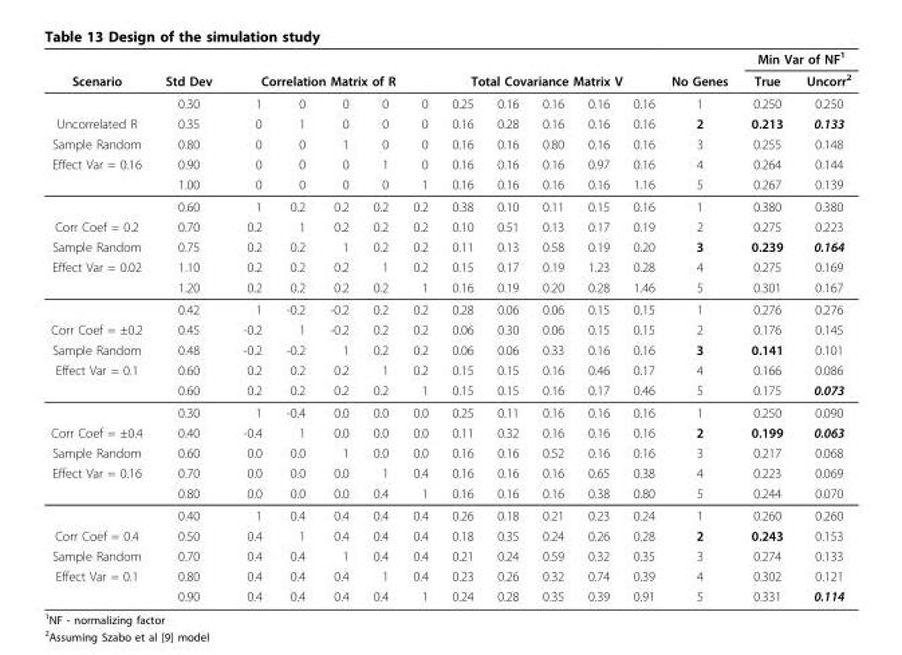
<table><thead><tr><td rowspan="2">Scenario</td><td rowspan="2">Std Dev</td><td></td><td></td><td></td><td></td><td></td><td></td><td></td><td></td><td></td><td></td><td rowspan="2">No Genes</td><td colspan="2">Min Var of NF<sup>1</sup></td></tr><tr><td colspan="5">Correlation Matrix of R</td><td colspan="5">Total Covariance Matrix V</td><td>True</td><td>Uncorr<sup>2</sup></td></tr></thead><tbody><tr><td></td><td>0.30</td><td>1</td><td>0</td><td>0</td><td>0</td><td>0</td><td>0.25</td><td>0.16</td><td>0.16</td><td>0.16</td><td>0.16</td><td>1</td><td>0.250</td><td>0.250</td></tr><tr><td>Uncorrelated R</td><td>0.35</td><td>0</td><td>1</td><td>0</td><td>0</td><td>0</td><td>0.16</td><td>0.28</td><td>0.16</td><td>0.16</td><td>0.16</td><td>2</td><td>0.213</td><td>0.133</td></tr><tr><td>Sample Random</td><td>0.80</td><td>0</td><td>0</td><td>1</td><td>0</td><td>0</td><td>0.16</td><td>0.16</td><td>0.80</td><td>0.16</td><td>0.16</td><td>3</td><td>0.255</td><td>0.148</td></tr><tr><td rowspan="3">Effect Var = 0.16</td><td>0.90</td><td>0</td><td>0</td><td>0</td><td>1</td><td>0</td><td>0.16</td><td>0.16</td><td>0.16</td><td>0.97</td><td>0.16</td><td>4</td><td>0.264</td><td>0.144</td></tr><tr><td>1.00</td><td>0</td><td>0</td><td>0</td><td>0</td><td>1</td><td>0.16</td><td>0.16</td><td>0.16</td><td>0.16</td><td>1.16</td><td>5</td><td>0.267</td><td>0.139</td></tr><tr><td>0.60</td><td>1</td><td>0.2</td><td>0.2</td><td>0.2</td><td>0.2</td><td>0.38</td><td>0.10</td><td>0.11</td><td>0.15</td><td>0.16</td><td>1</td><td>0.380</td><td>0.380</td></tr><tr><td>Corr Coef = 0.2</td><td>0.70</td><td>0.2</td><td>1</td><td>0.2</td><td>0.2</td><td>0.2</td><td>0.10</td><td>0.51</td><td>0.13</td><td>0.17</td><td>0.19</td><td>2</td><td>0.275</td><td>0.223</td></tr><tr><td>Sample Random</td><td>0.75</td><td>0.2</td><td>0.2</td><td>1</td><td>0.2</td><td>0.2</td><td>0.11</td><td>0.13</td><td>0.58</td><td>0.19</td><td>0.20</td><td>3</td><td>0.239</td><td>0.164</td></tr><tr><td rowspan="3">Effect Var = 0.02</td><td>1.10</td><td>0.2</td><td>0.2</td><td>0.2</td><td>1</td><td>0.2</td><td>0.15</td><td>0.17</td><td>0.19</td><td>1.23</td><td>0.28</td><td>4</td><td>0.275</td><td>0.169</td></tr><tr><td>1.20</td><td>0.2</td><td>0.2</td><td>0.2</td><td>0.2</td><td>1</td><td>0.16</td><td>0.19</td><td>0.20</td><td>0.28</td><td>1.46</td><td>5</td><td>0.301</td><td>0.167</td></tr><tr><td>0.42</td><td>1</td><td>-0.2</td><td>-0.2</td><td>0.2</td><td>0.2</td><td>0.28</td><td>0.06</td><td>0.06</td><td>0.15</td><td>0.15</td><td>1</td><td>0.276</td><td>0.276</td></tr><tr><td>Corr Coef = ±0.2</td><td>0.45</td><td>-0.2</td><td>1</td><td>-0.2</td><td>0.2</td><td>0.2</td><td>0.06</td><td>0.30</td><td>0.06</td><td>0.15</td><td>0.15</td><td>2</td><td>0.176</td><td>0.145</td></tr><tr><td>Sample Random</td><td>0.48</td><td>-0.2</td><td>-0.2</td><td>1</td><td>0.2</td><td>0.2</td><td>0.06</td><td>0.06</td><td>0.33</td><td>0.16</td><td>0.16</td><td>3</td><td>0.141</td><td>0.101</td></tr><tr><td rowspan="3">Effect Var = 0.1</td><td>0.60</td><td>0.2</td><td>0.2</td><td>0.2</td><td>1</td><td>0.2</td><td>0.15</td><td>0.15</td><td>0.16</td><td>0.46</td><td>0.17</td><td>4</td><td>0.166</td><td>0.086</td></tr><tr><td>0.60</td><td>0.2</td><td>0.2</td><td>0.2</td><td>0.2</td><td>1</td><td>0.15</td><td>0.15</td><td>0.16</td><td>0.17</td><td>0.46</td><td>5</td><td>0.175</td><td>0.073</td></tr><tr><td>0.30</td><td>1</td><td>-0.4</td><td>0.0</td><td>0.0</td><td>0.0</td><td>0.25</td><td>0.11</td><td>0.16</td><td>0.16</td><td>0.16</td><td>1</td><td>0.250</td><td>0.090</td></tr><tr><td>Corr Coef = ±0.4</td><td>0.40</td><td>-0.4</td><td>1</td><td>0.0</td><td>0.0</td><td>0.0</td><td>0.11</td><td>0.32</td><td>0.16</td><td>0.16</td><td>0.16</td><td>2</td><td>0.199</td><td>0.063</td></tr><tr><td>Sample Random</td><td>0.60</td><td>0.0</td><td>0.0</td><td>1</td><td>0.0</td><td>0.0</td><td>0.16</td><td>0.16</td><td>0.52</td><td>0.16</td><td>0.16</td><td>3</td><td>0.217</td><td>0.068</td></tr><tr><td rowspan="3">Effect Var = 0.16</td><td>0.70</td><td>0.0</td><td>0.0</td><td>0.0</td><td>1</td><td>0.4</td><td>0.16</td><td>0.16</td><td>0.16</td><td>0.65</td><td>0.38</td><td>4</td><td>0.223</td><td>0.069</td></tr><tr><td>0.80</td><td>0.0</td><td>0.0</td><td>0.0</td><td>0.4</td><td>1</td><td>0.16</td><td>0.16</td><td>0.16</td><td>0.38</td><td>0.80</td><td>5</td><td>0.244</td><td>0.070</td></tr><tr><td>0.40</td><td>1</td><td>0.4</td><td>0.4</td><td>0.4</td><td>0.4</td><td>0.26</td><td>0.18</td><td>0.21</td><td>0.23</td><td>0.24</td><td>1</td><td>0.260</td><td>0.260</td></tr><tr><td>Corr Coef = 0.4</td><td>0.50</td><td>0.4</td><td>1</td><td>0.4</td><td>0.4</td><td>0.4</td><td>0.18</td><td>0.35</td><td>0.24</td><td>0.26</td><td>0.28</td><td>2</td><td>0.243</td><td>0.153</td></tr><tr><td>Sample Random</td><td>0.70</td><td>0.4</td><td>0.4</td><td>1</td><td>0.4</td><td>0.4</td><td>0.21</td><td>0.24</td><td>0.59</td><td>0.32</td><td>0.35</td><td>3</td><td>0.274</td><td>0.133</td></tr><tr><td rowspan="2">Effect Var = 0.1</td><td>0.80</td><td>0.4</td><td>0.4</td><td>0.4</td><td>1</td><td>0.4</td><td>0.23</td><td>0.26</td><td>0.32</td><td>0.74</td><td>0.39</td><td>4</td><td>0.302</td><td>0.121</td></tr><tr><td>0.90</td><td>0.4</td><td>0.4</td><td>0.4</td><td>0.4</td><td>1</td><td>0.24</td><td>0.28</td><td>0.35</td><td>0.39</td><td>0.91</td><td>5</td><td>0.331</td><td>0.114</td></tr></tbody></table>